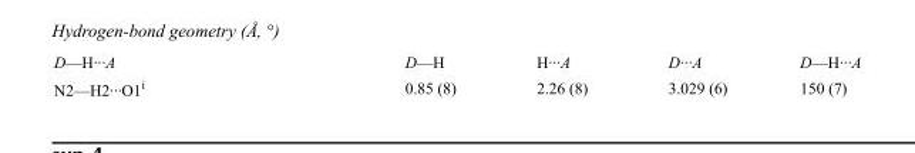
<table><tbody><tr><td>D—H···A</td><td>D—H</td><td>H···A</td><td>D···A</td><td>D—H···A</td></tr><tr><td>N2—H2···O1<sup>i</sup></td><td>0.85 (8)</td><td>2.26 (8)</td><td>3.029 (6)</td><td>150 (7)</td></tr></tbody></table>